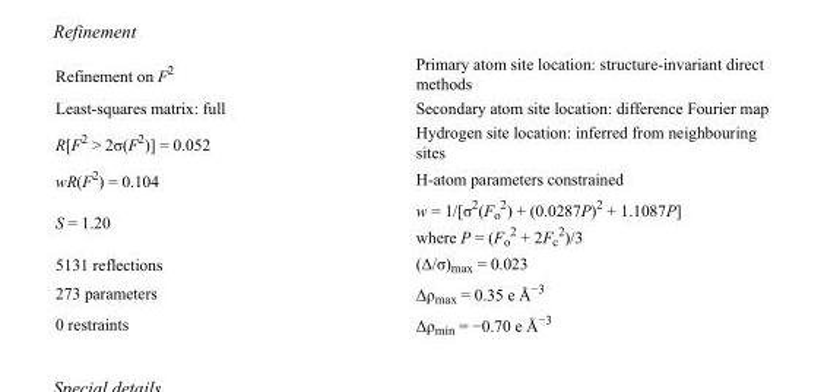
<table><tbody><tr><td>Refinement on F<sup>2</sup></td><td>Primary atom site location: structure-invariant direct methods</td></tr><tr><td>Least-squares matrix: full</td><td>Secondary atom site location: difference Fourier map</td></tr><tr><td>R[F<sup>2</sup> &gt; 2σ(F<sup>2</sup>)] = 0.052</td><td>Hydrogen site location: inferred from neighbouring sites</td></tr><tr><td>wR(F<sup>2</sup>) = 0.104</td><td>H-atom parameters constrained</td></tr><tr><td>S = 1.20</td><td>w = 1/[σ<sup>2</sup>(F<sub>o</sub> <sup>2</sup>) + (0.0287P)<sup>2</sup> + 1.1087P] where P = (F<sub>o</sub> <sup>2</sup> + 2F<sub>c</sub> <sup>2</sup>)/3</td></tr><tr><td>5131 reflections</td><td>(Δ/σ)<sub>max</sub> = 0.023</td></tr><tr><td>273 parameters</td><td>Δρ<sub>max</sub> = 0.35 e Å<sup>−3</sup></td></tr><tr><td>0 restraints</td><td>Δρmin = −0.70 e Å−3</td></tr></tbody></table>